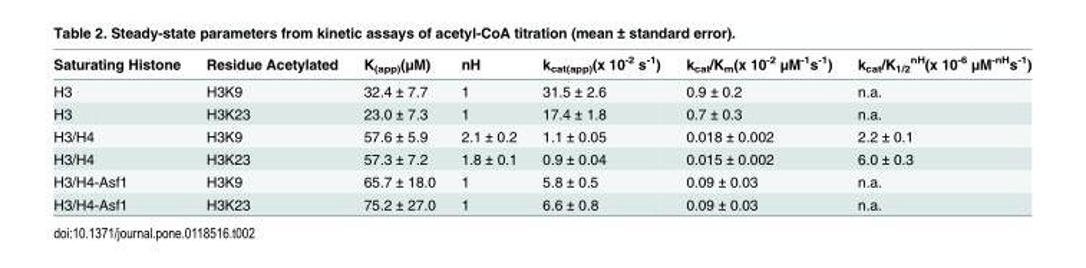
<table><thead><tr><td>Saturating Histone</td><td>Residue Acetylated</td><td>K<sub>(app)</sub>(μM)</td><td>nH</td><td>k<sub>cat(app)</sub>(x 10<sup>-2</sup> s<sup>-1</sup>)</td><td>k<sub>cat</sub>/K<sub>m</sub>(x 10<sup>-2</sup> μM<sup>-1</sup>s<sup>-1</sup>)</td><td>k<sub>cat</sub>/K<sub>1/2</sub> <sup>nH</sup>(x 10<sup>-6</sup> μM<sup>-nH</sup>s<sup>-1</sup>)</td></tr></thead><tbody><tr><td>H3</td><td>H3K9</td><td>32.4 ± 7.7</td><td>1</td><td>31.5 ± 2.6</td><td>0.9 ± 0.2</td><td>n.a.</td></tr><tr><td>H3</td><td>H3K23</td><td>23.0 ± 7.3</td><td>1</td><td>17.4 ± 1.8</td><td>0.7 ± 0.3</td><td>n.a.</td></tr><tr><td>H3/H4</td><td>H3K9</td><td>57.6 ± 5.9</td><td>2.1 ± 0.2</td><td>1.1 ± 0.05</td><td>0.018 ± 0.002</td><td>2.2 ± 0.1</td></tr><tr><td>H3/H4</td><td>H3K23</td><td>57.3 ± 7.2</td><td>1.8 ± 0.1</td><td>0.9 ± 0.04</td><td>0.015 ± 0.002</td><td>6.0 ± 0.3</td></tr><tr><td>H3/H4-Asf1</td><td>H3K9</td><td>65.7 ± 18.0</td><td>1</td><td>5.8 ± 0.5</td><td>0.09 ± 0.03</td><td>n.a.</td></tr><tr><td>H3/H4-Asf1</td><td>H3K23</td><td>75.2 ± 27.0</td><td>1</td><td>6.6 ± 0.8</td><td>0.09 ± 0.03</td><td>n.a.</td></tr></tbody></table>